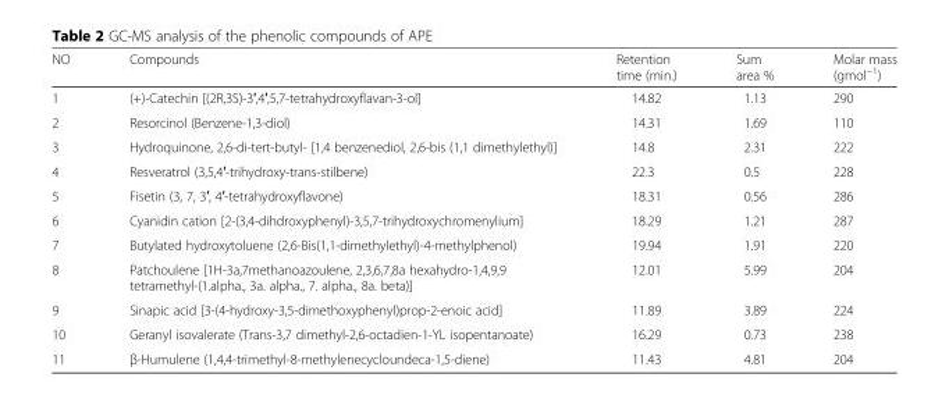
<table><thead><tr><td>NO</td><td>Compounds</td><td>Retention time (min.)</td><td>Sum area %</td><td>Molar mass (gmol<sup>−1</sup>)</td></tr></thead><tbody><tr><td>1</td><td>(+)-Catechin [(2R,3S)-3′,4′,5,7-tetrahydroxyflavan-3-ol]</td><td>14.82</td><td>1.13</td><td>290</td></tr><tr><td>2</td><td>Resorcinol (Benzene-1,3-diol)</td><td>14.31</td><td>1.69</td><td>110</td></tr><tr><td>3</td><td>Hydroquinone, 2,6-di-tert-butyl- [1,4 benzenediol, 2,6-bis (1,1 dimethylethyl)]</td><td>14.8</td><td>2.31</td><td>222</td></tr><tr><td>4</td><td>Resveratrol (3,5,4′-trihydroxy-trans-stilbene)</td><td>22.3</td><td>0.5</td><td>228</td></tr><tr><td>5</td><td>Fisetin (3, 7, 3′, 4′-tetrahydroxyflavone)</td><td>18.31</td><td>0.56</td><td>286</td></tr><tr><td>6</td><td>Cyanidin cation [2-(3,4-dihdroxyphenyl)-3,5,7-trihydroxychromenylium]</td><td>18.29</td><td>1.21</td><td>287</td></tr><tr><td>7</td><td>Butylated hydroxytoluene (2,6-Bis(1,1-dimethylethyl)-4-methylphenol)</td><td>19.94</td><td>1.91</td><td>220</td></tr><tr><td>8</td><td>Patchoulene [1H-3a,7methanoazoulene, 2,3,6,7,8a hexahydro-1,4,9,9 tetramethyl-(1.alpha., 3a. alpha., 7. alpha., 8a. beta)]</td><td>12.01</td><td>5.99</td><td>204</td></tr><tr><td>9</td><td>Sinapic acid [3-(4-hydroxy-3,5-dimethoxyphenyl)prop-2-enoic acid]</td><td>11.89</td><td>3.89</td><td>224</td></tr><tr><td>10</td><td>Geranyl isovalerate (Trans-3,7 dimethyl-2,6-octadien-1-YL isopentanoate)</td><td>16.29</td><td>0.73</td><td>238</td></tr><tr><td>11</td><td>β-Humulene (1,4,4-trimethyl-8-methylenecycloundeca-1,5-diene)</td><td>11.43</td><td>4.81</td><td>204</td></tr></tbody></table>